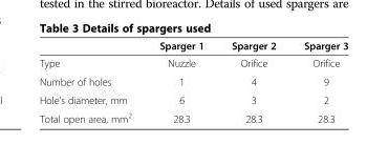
<table><thead><tr><td></td><td>Sparger 1</td><td>Sparger 2</td><td>Sparger 3</td></tr></thead><tbody><tr><td>Type</td><td>Nuzzle</td><td>Orifice</td><td>Orifice</td></tr><tr><td>Number of holes</td><td>1</td><td>4</td><td>9</td></tr><tr><td>Hole&#x27;s diameter, mm</td><td>6</td><td>3</td><td>2</td></tr><tr><td>Total open area, mm<sup>2</sup></td><td>28.3</td><td>28.3</td><td>28.3</td></tr></tbody></table>